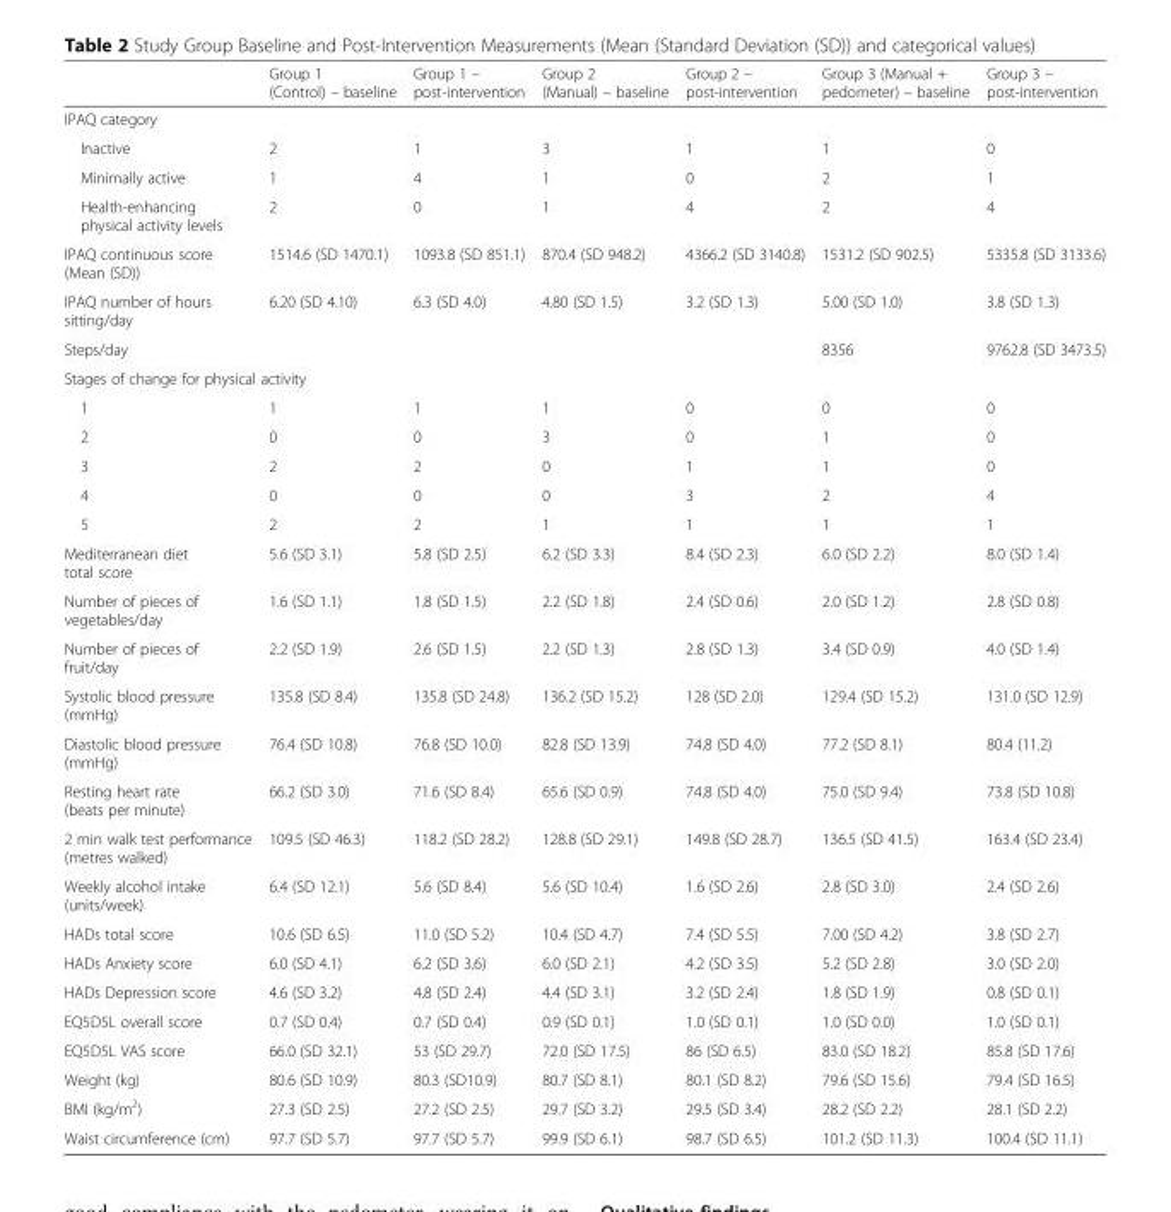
<table><thead><tr><td></td><td>Group 1 (Control) – baseline</td><td>Group 1 – post-intervention</td><td>Group 2 (Manual) – baseline</td><td>Group 2 – post-intervention</td><td>Group 3 (Manual + pedometer) – baseline</td><td>Group 3 – post-intervention</td></tr></thead><tbody><tr><td colspan="7">IPAQ category</td></tr><tr><td>Inactive</td><td>2</td><td>1</td><td>3</td><td>1</td><td>1</td><td>0</td></tr><tr><td>Minimally active</td><td>1</td><td>4</td><td>1</td><td>0</td><td>2</td><td>1</td></tr><tr><td>Health-enhancing physical activity levels</td><td>2</td><td>0</td><td>1</td><td>4</td><td>2</td><td>4</td></tr><tr><td>IPAQ continuous score (Mean (SD))</td><td>1514.6 (SD 1470.1)</td><td>1093.8 (SD 851.1)</td><td>870.4 (SD 948.2)</td><td>4366.2 (SD 3140.8)</td><td>1531.2 (SD 902.5)</td><td>5335.8 (SD 3133.6)</td></tr><tr><td>IPAQ number of hours sitting/day</td><td>6.20 (SD 4.10)</td><td>6.3 (SD 4.0)</td><td>4.80 (SD 1.5)</td><td>3.2 (SD 1.3)</td><td>5.00 (SD 1.0)</td><td>3.8 (SD 1.3)</td></tr><tr><td>Steps/day</td><td></td><td></td><td></td><td></td><td>8356</td><td>9762.8 (SD 3473.5)</td></tr><tr><td colspan="7">Stages of change for physical activity</td></tr><tr><td>1</td><td>1</td><td>1</td><td>1</td><td>0</td><td>0</td><td>0</td></tr><tr><td>2</td><td>0</td><td>0</td><td>3</td><td>0</td><td>1</td><td>0</td></tr><tr><td>3</td><td>2</td><td>2</td><td>0</td><td>1</td><td>1</td><td>0</td></tr><tr><td>4</td><td>0</td><td>0</td><td>0</td><td>3</td><td>2</td><td>4</td></tr><tr><td>5</td><td>2</td><td>2</td><td>1</td><td>1</td><td>1</td><td>1</td></tr><tr><td>Mediterranean diet total score</td><td>5.6 (SD 3.1)</td><td>5.8 (SD 2.5)</td><td>6.2 (SD 3.3)</td><td>8.4 (SD 2.3)</td><td>6.0 (SD 2.2)</td><td>8.0 (SD 1.4)</td></tr><tr><td>Number of pieces of vegetables/day</td><td>1.6 (SD 1.1)</td><td>1.8 (SD 1.5)</td><td>2.2 (SD 1.8)</td><td>2.4 (SD 0.6)</td><td>2.0 (SD 1.2)</td><td>2.8 (SD 0.8)</td></tr><tr><td>Number of pieces of fruit/day</td><td>2.2 (SD 1.9)</td><td>2.6 (SD 1.5)</td><td>2.2 (SD 1.3)</td><td>2.8 (SD 1.3)</td><td>3.4 (SD 0.9)</td><td>4.0 (SD 1.4)</td></tr><tr><td>Systolic blood pressure (mmHg)</td><td>135.8 (SD 8.4)</td><td>135.8 (SD 24.8)</td><td>136.2 (SD 15.2)</td><td>128 (SD 2.0)</td><td>129.4 (SD 15.2)</td><td>131.0 (SD 12.9)</td></tr><tr><td>Diastolic blood pressure (mmHg)</td><td>76.4 (SD 10.8)</td><td>76.8 (SD 10.0)</td><td>82.8 (SD 13.9)</td><td>74.8 (SD 4.0)</td><td>77.2 (SD 8.1)</td><td>80.4 (11.2)</td></tr><tr><td>Resting heart rate (beats per minute)</td><td>66.2 (SD 3.0)</td><td>71.6 (SD 8.4)</td><td>65.6 (SD 0.9)</td><td>74.8 (SD 4.0)</td><td>75.0 (SD 9.4)</td><td>73.8 (SD 10.8)</td></tr><tr><td>2 min walk test performance (metres walked)</td><td>109.5 (SD 46.3)</td><td>118.2 (SD 28.2)</td><td>128.8 (SD 29.1)</td><td>149.8 (SD 28.7)</td><td>136.5 (SD 41.5)</td><td>163.4 (SD 23.4)</td></tr><tr><td>Weekly alcohol intake (units/week)</td><td>6.4 (SD 12.1)</td><td>5.6 (SD 8.4)</td><td>5.6 (SD 10.4)</td><td>1.6 (SD 2.6)</td><td>2.8 (SD 3.0)</td><td>2.4 (SD 2.6)</td></tr><tr><td>HADs total score</td><td>10.6 (SD 6.5)</td><td>11.0 (SD 5.2)</td><td>10.4 (SD 4.7)</td><td>7.4 (SD 5.5)</td><td>7.00 (SD 4.2)</td><td>3.8 (SD 2.7)</td></tr><tr><td>HADs Anxiety score</td><td>6.0 (SD 4.1)</td><td>6.2 (SD 3.6)</td><td>6.0 (SD 2.1)</td><td>4.2 (SD 3.5)</td><td>5.2 (SD 2.8)</td><td>3.0 (SD 2.0)</td></tr><tr><td>HADs Depression score</td><td>4.6 (SD 3.2)</td><td>4.8 (SD 2.4)</td><td>4.4 (SD 3.1)</td><td>3.2 (SD 2.4)</td><td>1.8 (SD 1.9)</td><td>0.8 (SD 0.1)</td></tr><tr><td>EQ5D5L overall score</td><td>0.7 (SD 0.4)</td><td>0.7 (SD 0.4)</td><td>0.9 (SD 0.1)</td><td>1.0 (SD 0.1)</td><td>1.0 (SD 0.0)</td><td>1.0 (SD 0.1)</td></tr><tr><td>EQ5D5L VAS score</td><td>66.0 (SD 32.1)</td><td>53 (SD 29.7)</td><td>72.0 (SD 17.5)</td><td>86 (SD 6.5)</td><td>83.0 (SD 18.2)</td><td>85.8 (SD 17.6)</td></tr><tr><td>Weight (kg)</td><td>80.6 (SD 10.9)</td><td>80.3 (SD10.9)</td><td>80.7 (SD 8.1)</td><td>80.1 (SD 8.2)</td><td>79.6 (SD 15.6)</td><td>79.4 (SD 16.5)</td></tr><tr><td>BMI (kg/m<sup>2</sup>)</td><td>27.3 (SD 2.5)</td><td>27.2 (SD 2.5)</td><td>29.7 (SD 3.2)</td><td>29.5 (SD 3.4)</td><td>28.2 (SD 2.2)</td><td>28.1 (SD 2.2)</td></tr><tr><td>Waist circumference (cm)</td><td>97.7 (SD 5.7)</td><td>97.7 (SD 5.7)</td><td>99.9 (SD 6.1)</td><td>98.7 (SD 6.5)</td><td>101.2 (SD 11.3)</td><td>100.4 (SD 11.1)</td></tr></tbody></table>